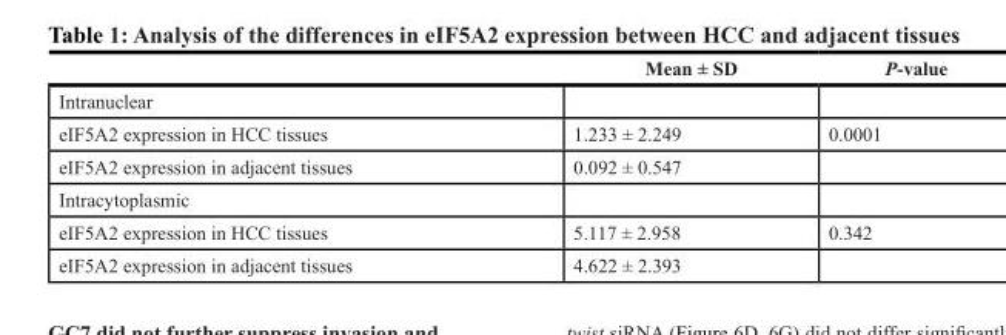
<table><thead><tr><td></td><td>Mean ± SD</td><td>P-value</td></tr></thead><tbody><tr><td colspan="3">Intranuclear</td></tr><tr><td>eIF5A2 expression in HCC tissues</td><td>1.233 ± 2.249</td><td>0.0001</td></tr><tr><td>eIF5A2 expression in adjacent tissues</td><td>0.092 ± 0.547</td><td></td></tr><tr><td colspan="3">Intracytoplasmic</td></tr><tr><td>eIF5A2 expression in HCC tissues</td><td>5.117 ± 2.958</td><td>0.342</td></tr><tr><td>eIF5A2 expression in adjacent tissues</td><td>4.622 ± 2.393</td><td></td></tr></tbody></table>